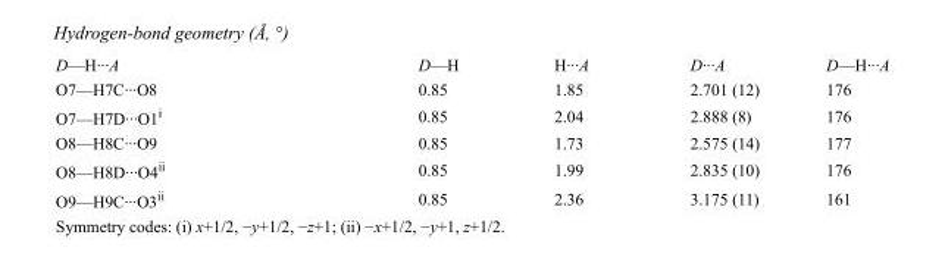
<table><tbody><tr><td>D—H···A</td><td>D—H</td><td>H···A</td><td>D···A</td><td>D—H···A</td></tr><tr><td>O7—H7C···O8</td><td>0.85</td><td>1.85</td><td>2.701 (12)</td><td>176</td></tr><tr><td>O7—H7D···O1<sup>i</sup></td><td>0.85</td><td>2.04</td><td>2.888 (8)</td><td>176</td></tr><tr><td>O8—H8C···O9</td><td>0.85</td><td>1.73</td><td>2.575 (14)</td><td>177</td></tr><tr><td>O8—H8D···O4<sup>ii</sup></td><td>0.85</td><td>1.99</td><td>2.835 (10)</td><td>176</td></tr><tr><td>O9—H9C···O3<sup>ii</sup></td><td>0.85</td><td>2.36</td><td>3.175 (11)</td><td>161</td></tr></tbody></table>